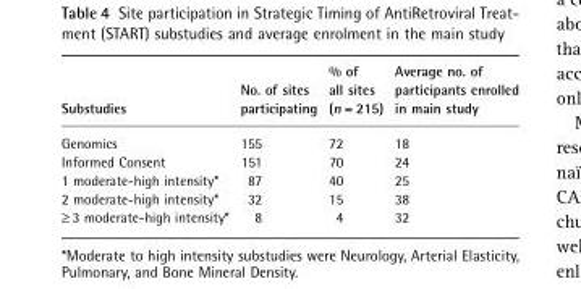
<table><thead><tr><td>Substudies</td><td>No. of sites participating</td><td>% of all sites (n = 215)</td><td>Average no. of participants enrolled in main study</td></tr></thead><tbody><tr><td>Genomics</td><td>155</td><td>72</td><td>18</td></tr><tr><td>Informed Consent</td><td>151</td><td>70</td><td>24</td></tr><tr><td>1 moderate-high intensity*</td><td>87</td><td>40</td><td>25</td></tr><tr><td>2 moderate-high intensity*</td><td>32</td><td>15</td><td>38</td></tr><tr><td>≥ 3 moderate-high intensity*</td><td>8</td><td>4</td><td>32</td></tr></tbody></table>